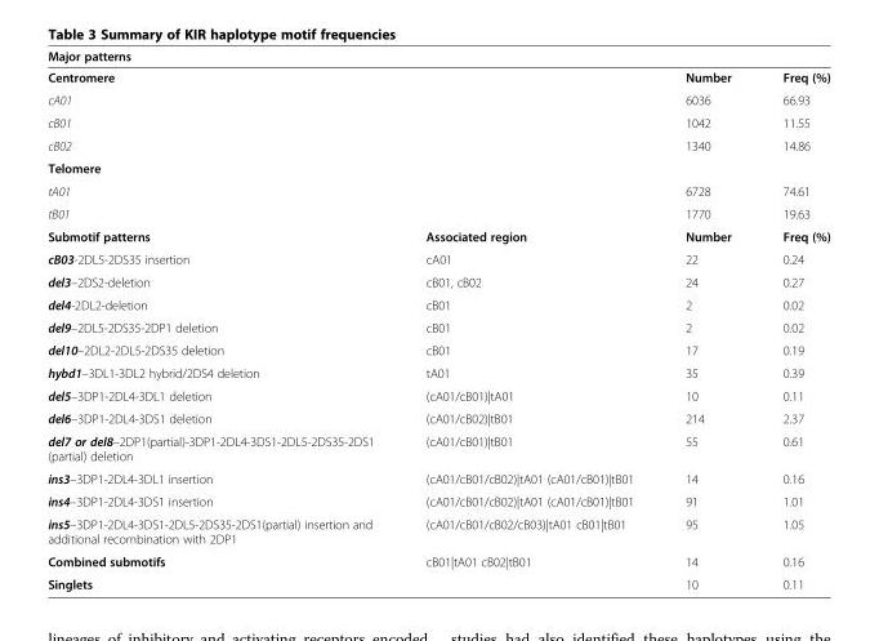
<table><thead><tr><td colspan="2">Major patterns</td><td rowspan="2">Number</td><td rowspan="2">Freq (%)</td></tr><tr><td>Centromere</td><td></td></tr></thead><tbody><tr><td>cA01</td><td></td><td>6036</td><td>66.93</td></tr><tr><td>cB01</td><td></td><td>1042</td><td>11.55</td></tr><tr><td>cB02</td><td></td><td>1340</td><td>14.86</td></tr><tr><td colspan="4">Telomere</td></tr><tr><td>tA01</td><td></td><td>6728</td><td>74.61</td></tr><tr><td>tB01</td><td></td><td>1770</td><td>19.63</td></tr><tr><td>Submotif patterns</td><td>Associated region</td><td>Number</td><td>Freq (%)</td></tr><tr><td>cB03-2DL5-2DS35 insertion</td><td>cA01</td><td>22</td><td>0.24</td></tr><tr><td>del3–2DS2-deletion</td><td>cB01, cB02</td><td>24</td><td>0.27</td></tr><tr><td>del4-2DL2-deletion</td><td>cB01</td><td>2</td><td>0.02</td></tr><tr><td>del9–2DL5-2DS35-2DP1 deletion</td><td>cB01</td><td>2</td><td>0.02</td></tr><tr><td>del10–2DL2-2DL5-2DS35 deletion</td><td>cB01</td><td>17</td><td>0.19</td></tr><tr><td>hybd1–3DL1-3DL2 hybrid/2DS4 deletion</td><td>tA01</td><td>35</td><td>0.39</td></tr><tr><td>del5–3DP1-2DL4-3DL1 deletion</td><td>(cA01/cB01)|tA01</td><td>10</td><td>0.11</td></tr><tr><td>del6–3DP1-2DL4-3DS1 deletion</td><td>(cA01/cB02)|tB01</td><td>214</td><td>2.37</td></tr><tr><td>del7 or del8–2DP1(partial)-3DP1-2DL4-3DS1-2DL5-2DS35-2DS1 (partial) deletion</td><td>(cA01/cB01)|tB01</td><td>55</td><td>0.61</td></tr><tr><td>ins3–3DP1-2DL4-3DL1 insertion</td><td>(cA01/cB01/cB02)|tA01 (cA01/cB01)|tB01</td><td>14</td><td>0.16</td></tr><tr><td>ins4–3DP1-2DL4-3DS1 insertion</td><td>(cA01/cB01/cB02)|tA01 (cA01/cB01)|tB01</td><td>91</td><td>1.01</td></tr><tr><td>ins5–3DP1-2DL4-3DS1-2DL5-2DS35-2DS1(partial) insertion and additional recombination with 2DP1</td><td>(cA01/cB01/cB02/cB03)|tA01 cB01|tB01</td><td>95</td><td>1.05</td></tr><tr><td>Combined submotifs</td><td>cB01|tA01 cB02|tB01</td><td>14</td><td>0.16</td></tr><tr><td>Singlets</td><td></td><td>10</td><td>0.11</td></tr></tbody></table>